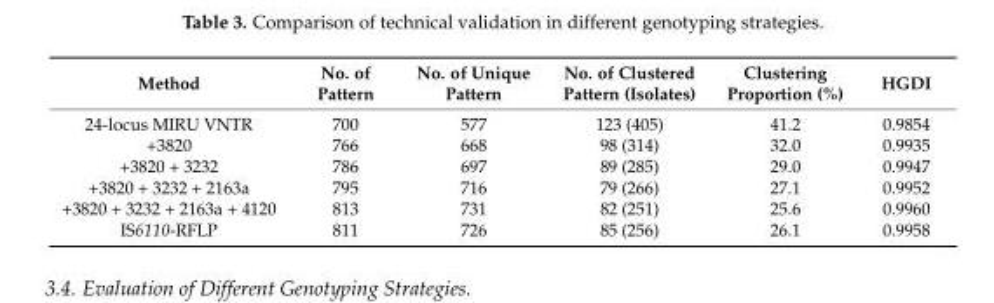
<table><thead><tr><td>Method</td><td>No. of Pattern</td><td>No. of Unique Pattern</td><td>No. of Clustered Pattern (Isolates)</td><td>Clustering Proportion (%)</td><td>HGDI</td></tr></thead><tbody><tr><td>24-locus MIRU VNTR</td><td>700</td><td>577</td><td>123 (405)</td><td>41.2</td><td>0.9854</td></tr><tr><td>+3820</td><td>766</td><td>668</td><td>98 (314)</td><td>32.0</td><td>0.9935</td></tr><tr><td>+3820 + 3232</td><td>786</td><td>697</td><td>89 (285)</td><td>29.0</td><td>0.9947</td></tr><tr><td>+3820 + 3232 + 2163a</td><td>795</td><td>716</td><td>79 (266)</td><td>27.1</td><td>0.9952</td></tr><tr><td>+3820 + 3232 + 2163a + 4120</td><td>813</td><td>731</td><td>82 (251)</td><td>25.6</td><td>0.9960</td></tr><tr><td>IS6110-RFLP</td><td>811</td><td>726</td><td>85 (256)</td><td>26.1</td><td>0.9958</td></tr></tbody></table>